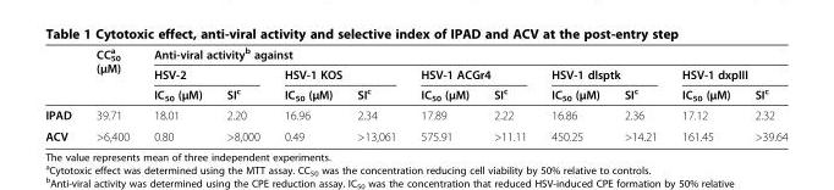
<table><thead><tr><td rowspan="3"></td><td rowspan="3">CC<sub>50</sub> <sup>a</sup> (μM)</td><td colspan="10">Anti-viral activity<sup>b</sup> against</td></tr><tr><td colspan="2">HSV-2</td><td colspan="2">HSV-1 KOS</td><td colspan="2">HSV-1 ACGr4</td><td colspan="2">HSV-1 dlsptk</td><td colspan="2">HSV-1 dxpIII</td></tr><tr><td>IC<sub>50</sub> (μM)</td><td>SI<sup>c</sup></td><td>IC<sub>50</sub> (μM)</td><td>SI<sup>c</sup></td><td>IC<sub>50</sub> (μM)</td><td>SI<sup>c</sup></td><td>IC<sub>50</sub> (μM)</td><td>SI<sup>c</sup></td><td>IC<sub>50</sub> (μM)</td><td>SI<sup>c</sup></td></tr></thead><tbody><tr><td>IPAD</td><td>39.71</td><td>18.01</td><td>2.20</td><td>16.96</td><td>2.34</td><td>17.89</td><td>2.22</td><td>16.86</td><td>2.36</td><td>17.12</td><td>2.32</td></tr><tr><td>ACV</td><td>&gt;6,400</td><td>0.80</td><td>&gt;8,000</td><td>0.49</td><td>&gt;13,061</td><td>575.91</td><td>&gt;11.11</td><td>450.25</td><td>&gt;14.21</td><td>161.45</td><td>&gt;39.64</td></tr></tbody></table>